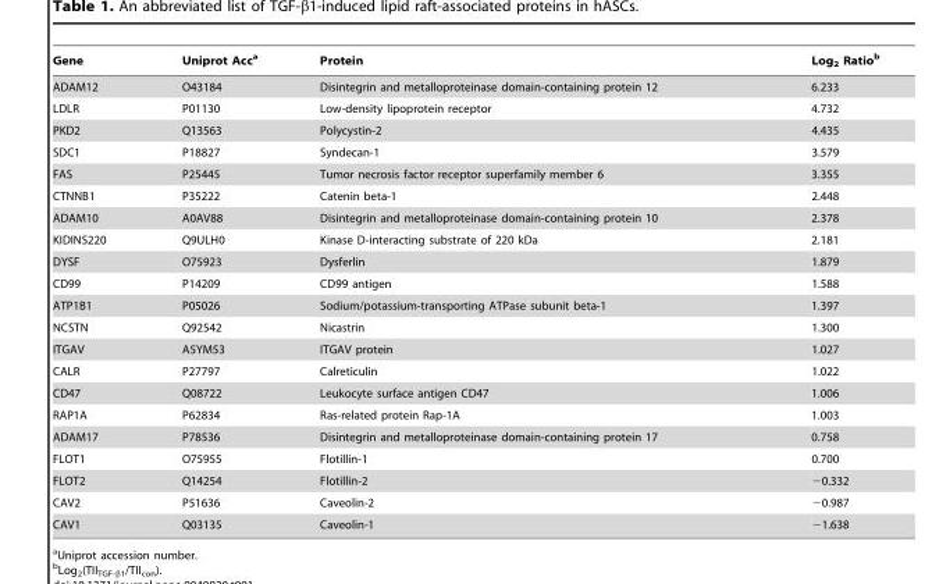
<table><thead><tr><td>Gene</td><td>Uniprot Acc<sup>a</sup></td><td>Protein</td><td>Log<sub>2</sub> Ratio<sup>b</sup></td></tr></thead><tbody><tr><td>ADAM12</td><td>O43184</td><td>Disintegrin and metalloproteinase domain-containing protein 12</td><td>6.233</td></tr><tr><td>LDLR</td><td>P01130</td><td>Low-density lipoprotein receptor</td><td>4.732</td></tr><tr><td>PKD2</td><td>Q13563</td><td>Polycystin-2</td><td>4.435</td></tr><tr><td>SDC1</td><td>P18827</td><td>Syndecan-1</td><td>3.579</td></tr><tr><td>FAS</td><td>P25445</td><td>Tumor necrosis factor receptor superfamily member 6</td><td>3.355</td></tr><tr><td>CTNNB1</td><td>P35222</td><td>Catenin beta-1</td><td>2.448</td></tr><tr><td>ADAM10</td><td>A0AV88</td><td>Disintegrin and metalloproteinase domain-containing protein 10</td><td>2.378</td></tr><tr><td>KIDINS220</td><td>Q9ULH0</td><td>Kinase D-interacting substrate of 220 kDa</td><td>2.181</td></tr><tr><td>DYSF</td><td>O75923</td><td>Dysferlin</td><td>1.879</td></tr><tr><td>CD99</td><td>P14209</td><td>CD99 antigen</td><td>1.588</td></tr><tr><td>ATP1B1</td><td>P05026</td><td>Sodium/potassium-transporting ATPase subunit beta-1</td><td>1.397</td></tr><tr><td>NCSTN</td><td>Q92542</td><td>Nicastrin</td><td>1.300</td></tr><tr><td>ITGAV</td><td>A5YM53</td><td>ITGAV protein</td><td>1.027</td></tr><tr><td>CALR</td><td>P27797</td><td>Calreticulin</td><td>1.022</td></tr><tr><td>CD47</td><td>Q08722</td><td>Leukocyte surface antigen CD47</td><td>1.006</td></tr><tr><td>RAP1A</td><td>P62834</td><td>Ras-related protein Rap-1A</td><td>1.003</td></tr><tr><td>ADAM17</td><td>P78536</td><td>Disintegrin and metalloproteinase domain-containing protein 17</td><td>0.758</td></tr><tr><td>FLOT1</td><td>O75955</td><td>Flotillin-1</td><td>0.700</td></tr><tr><td>FLOT2</td><td>Q14254</td><td>Flotillin-2</td><td>−0.332</td></tr><tr><td>CAV2</td><td>P51636</td><td>Caveolin-2</td><td>−0.987</td></tr><tr><td>CAV1</td><td>Q03135</td><td>Caveolin-1</td><td>−1.638</td></tr></tbody></table>